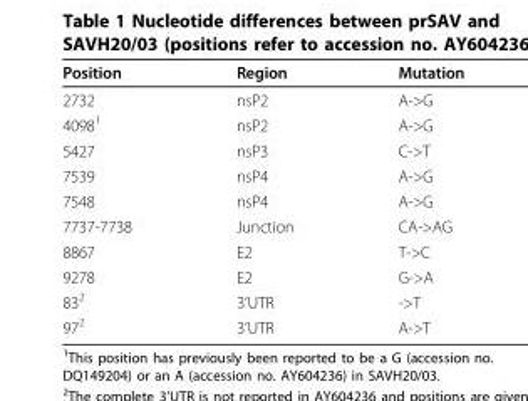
<table><thead><tr><td>Position</td><td>Region</td><td>Mutation</td></tr></thead><tbody><tr><td>2732</td><td>nsP2</td><td>A-&gt;G</td></tr><tr><td>4098<sup>1</sup></td><td>nsP2</td><td>A-&gt;G</td></tr><tr><td>5427</td><td>nsP3</td><td>C-&gt;T</td></tr><tr><td>7539</td><td>nsP4</td><td>A-&gt;G</td></tr><tr><td>7548</td><td>nsP4</td><td>A-&gt;G</td></tr><tr><td>7737-7738</td><td>Junction</td><td>CA-&gt;AG</td></tr><tr><td>8867</td><td>E2</td><td>T-&gt;C</td></tr><tr><td>9278</td><td>E2</td><td>G-&gt;A</td></tr><tr><td>83<sup>2</sup></td><td>3’UTR</td><td>-&gt;T</td></tr><tr><td>97<sup>2</sup></td><td>3’UTR</td><td>A-&gt;T</td></tr></tbody></table>